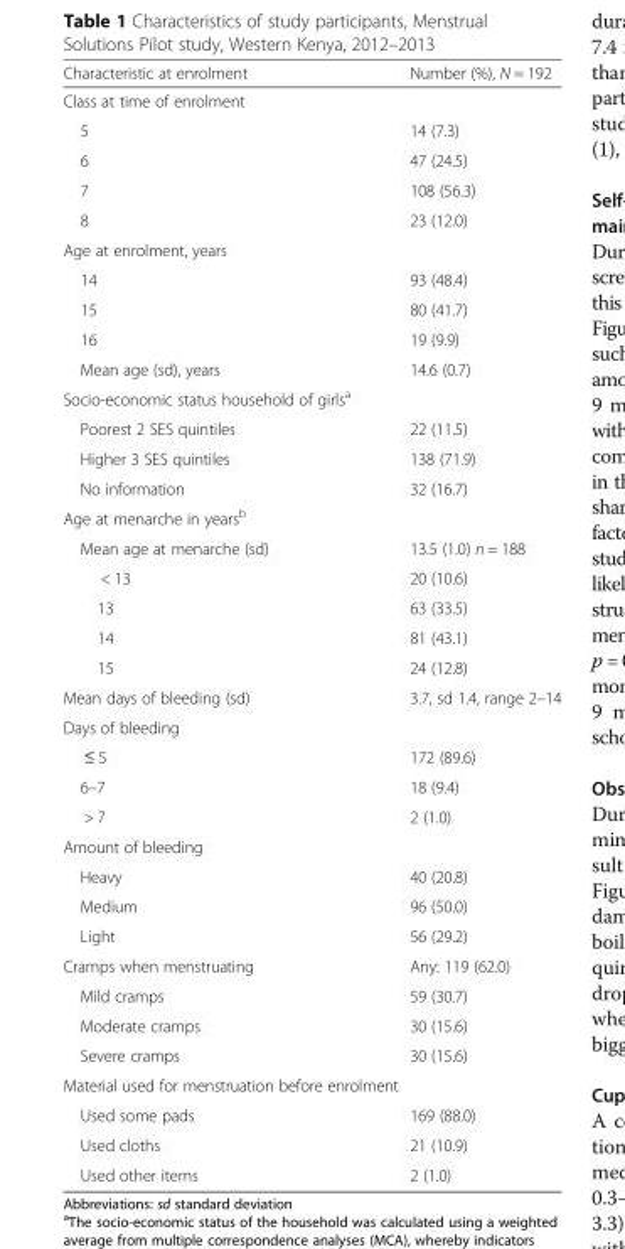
<table><thead><tr><td>Characteristic at enrolment</td><td>Number (%), N = 192</td></tr></thead><tbody><tr><td colspan="2">Class at time of enrolment</td></tr><tr><td>5</td><td>14 (7.3)</td></tr><tr><td>6</td><td>47 (24.5)</td></tr><tr><td>7</td><td>108 (56.3)</td></tr><tr><td>8</td><td>23 (12.0)</td></tr><tr><td colspan="2">Age at enrolment, years</td></tr><tr><td>14</td><td>93 (48.4)</td></tr><tr><td>15</td><td>80 (41.7)</td></tr><tr><td>16</td><td>19 (9.9)</td></tr><tr><td>Mean age (sd), years</td><td>14.6 (0.7)</td></tr><tr><td colspan="2">Socio-economic status household of girls<sup>a</sup></td></tr><tr><td>Poorest 2 SES quintiles</td><td>22 (11.5)</td></tr><tr><td>Higher 3 SES quintiles</td><td>138 (71.9)</td></tr><tr><td>No information</td><td>32 (16.7)</td></tr><tr><td colspan="2">Age at menarche in years<sup>b</sup></td></tr><tr><td>Mean age at menarche (sd)</td><td>13.5 (1.0) n = 188</td></tr><tr><td>&lt; 13</td><td>20 (10.6)</td></tr><tr><td>13</td><td>63 (33.5)</td></tr><tr><td>14</td><td>81 (43.1)</td></tr><tr><td>15</td><td>24 (12.8)</td></tr><tr><td>Mean days of bleeding (sd)</td><td>3.7, sd 1.4, range 2–14</td></tr><tr><td colspan="2">Days of bleeding</td></tr><tr><td>≤ 5</td><td>172 (89.6)</td></tr><tr><td>6–7</td><td>18 (9.4)</td></tr><tr><td>&gt; 7</td><td>2 (1.0)</td></tr><tr><td colspan="2">Amount of bleeding</td></tr><tr><td>Heavy</td><td>40 (20.8)</td></tr><tr><td>Medium</td><td>96 (50.0)</td></tr><tr><td>Light</td><td>56 (29.2)</td></tr><tr><td>Cramps when menstruating</td><td>Any: 119 (62.0)</td></tr><tr><td>Mild cramps</td><td>59 (30.7)</td></tr><tr><td>Moderate cramps</td><td>30 (15.6)</td></tr><tr><td>Severe cramps</td><td>30 (15.6)</td></tr><tr><td colspan="2">Material used for menstruation before enrolment</td></tr><tr><td>Used some pads</td><td>169 (88.0)</td></tr><tr><td>Used cloths</td><td>21 (10.9)</td></tr><tr><td>Used other items</td><td>2 (1.0)</td></tr></tbody></table>